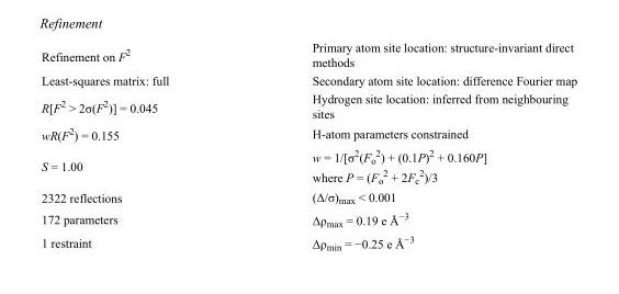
<table><tbody><tr><td>Refinement on F<sup>2</sup></td><td>Primary atom site location: structure-invariant direct methods</td></tr><tr><td>Least-squares matrix: full</td><td>Secondary atom site location: difference Fourier map</td></tr><tr><td>R[F<sup>2</sup> &gt; 2σ(F<sup>2</sup>)] = 0.045</td><td>Hydrogen site location: inferred from neighbouring sites</td></tr><tr><td>wR(F<sup>2</sup>) = 0.155</td><td>H-atom parameters constrained</td></tr><tr><td>S = 1.00</td><td>w = 1/[σ<sup>2</sup>(F<sub>o</sub> <sup>2</sup>) + (0.1P)<sup>2</sup> + 0.160P] where P = (F<sub>o</sub> <sup>2</sup> + 2F<sub>c</sub> <sup>2</sup>)/3</td></tr><tr><td>2322 reflections</td><td>(Δ/σ)<sub>max</sub> &lt; 0.001</td></tr><tr><td>172 parameters</td><td>Δρ<sub>max</sub> = 0.19 e Å<sup>−3</sup></td></tr><tr><td>1 restraint</td><td>Δρ<sub>min</sub> = −0.25 e Å<sup>−3</sup></td></tr></tbody></table>